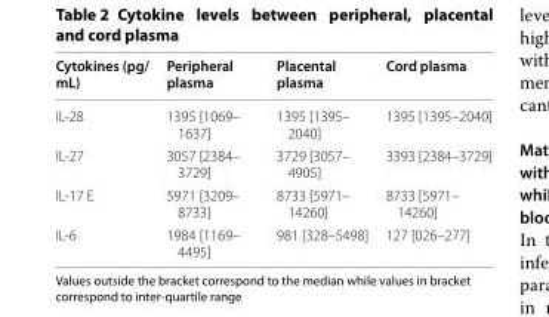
<table><thead><tr><td>Cytokines (pg/ mL)</td><td>Peripheral plasma</td><td>Placental plasma</td><td>Cord plasma</td></tr></thead><tbody><tr><td>IL-28</td><td>1395 [1069– 1637]</td><td>1395 [1395– 2040]</td><td>1395 [1395–2040]</td></tr><tr><td>IL-27</td><td>3057 [2384– 3729]</td><td>3729 [3057– 4905]</td><td>3393 [2384–3729]</td></tr><tr><td>IL-17 E</td><td>5971 [3209– 8733]</td><td>8733 [5971– 14260]</td><td>8733 [5971– 14260]</td></tr><tr><td>IL-6</td><td>1984 [1169– 4495]</td><td>981 [328–5498]</td><td>127 [026–277]</td></tr></tbody></table>